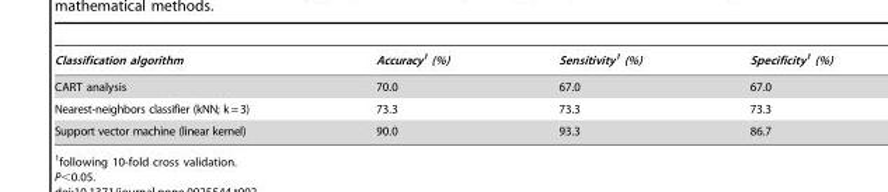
<table><thead><tr><td>Classification algorithm</td><td>Accuracy1 (%)</td><td>Sensitivity1 (%)</td><td>Specificity1 (%)</td></tr></thead><tbody><tr><td>CART analysis</td><td>70.0</td><td>67.0</td><td>67.0</td></tr><tr><td>Nearest-neighbors classifier (kNN; k=3)</td><td>73.3</td><td>73.3</td><td>73.3</td></tr><tr><td>Support vector machine (linear kernel)</td><td>90.0</td><td>93.3</td><td>86.7</td></tr></tbody></table>